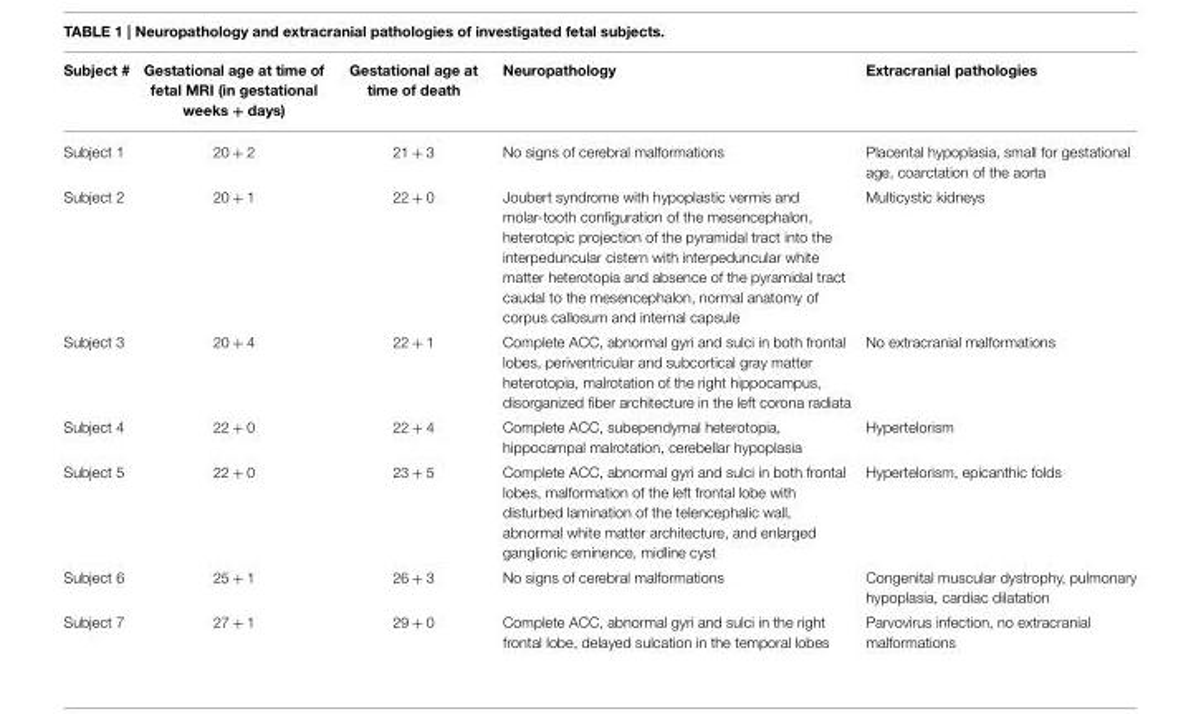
<table><thead><tr><td>Subject #</td><td>Gestational age at time of fetal MRI (in gestational weeks + days)</td><td>Gestational age at time of death</td><td>Neuropathology</td><td>Extracranial pathologies</td></tr></thead><tbody><tr><td>Subject 1</td><td>20 + 2</td><td>21 + 3</td><td>No signs of cerebral malformations</td><td>Placental hypoplasia, small for gestational age, coarctation of the aorta</td></tr><tr><td>Subject 2</td><td>20 + 1</td><td>22 + 0</td><td>Joubert syndrome with hypoplastic vermis and molar-tooth configuration of the mesencephalon, heterotopic projection of the pyramidal tract into the interpeduncular cistern with interpeduncular white matter heterotopia and absence of the pyramidal tract caudal to the mesencephalon, normal anatomy of corpus callosum and internal capsule</td><td>Multicystic kidneys</td></tr><tr><td>Subject 3</td><td>20 + 4</td><td>22 + 1</td><td>Complete ACC, abnormal gyri and sulci in both frontal lobes, periventricular and subcortical gray matter heterotopia, malrotation of the right hippocampus, disorganized fiber architecture in the left corona radiata</td><td>No extracranial malformations</td></tr><tr><td>Subject 4</td><td>22 + 0</td><td>22 + 4</td><td>Complete ACC, subependymal heterotopia, hippocampal malrotation, cerebellar hypoplasia</td><td>Hypertelorism</td></tr><tr><td>Subject 5</td><td>22 + 0</td><td>23 + 5</td><td>Complete ACC, abnormal gyri and sulci in both frontal lobes, malformation of the left frontal lobe with disturbed lamination of the telencephalic wall, abnormal white matter architecture, and enlarged ganglionic eminence, midline cyst</td><td>Hypertelorism, epicanthic folds</td></tr><tr><td>Subject 6</td><td>25 + 1</td><td>26 + 3</td><td>No signs of cerebral malformations</td><td>Congenital muscular dystrophy, pulmonary hypoplasia, cardiac dilatation</td></tr><tr><td>Subject 7</td><td>27 + 1</td><td>29 + 0</td><td>Complete ACC, abnormal gyri and sulci in the right frontal lobe, delayed sulcation in the temporal lobes</td><td>Parvovirus infection, no extracranial malformations</td></tr></tbody></table>